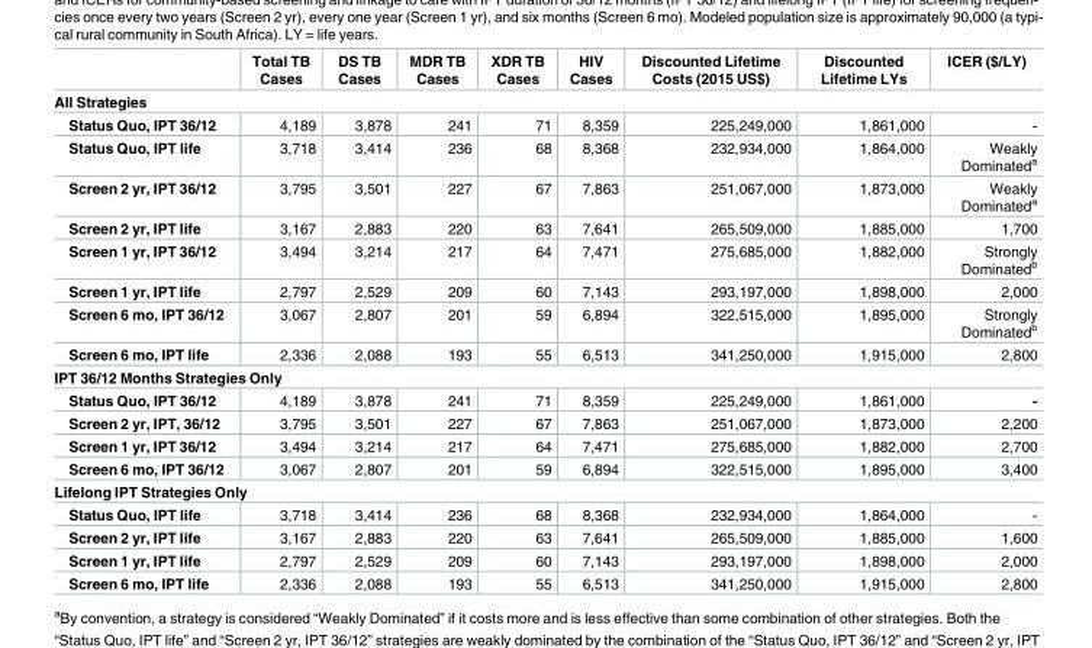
<table><thead><tr><td></td><td>Total TB Cases</td><td>DS TB Cases</td><td>MDR TB Cases</td><td>XDR TB Cases</td><td>HIV Cases</td><td>Discounted Lifetime Costs (2015 US$)</td><td>Discounted Lifetime LYs</td><td>ICER ($/LY)</td></tr></thead><tbody><tr><td colspan="9">All Strategies</td></tr><tr><td>Status Quo, IPT 36/12</td><td>4,189</td><td>3,878</td><td>241</td><td>71</td><td>8,359</td><td>225,249,000</td><td>1,861,000</td><td>-</td></tr><tr><td>Status Quo, IPT life</td><td>3,718</td><td>3,414</td><td>236</td><td>68</td><td>8,368</td><td>232,934,000</td><td>1,864,000</td><td>Weakly Dominated<sup>a</sup></td></tr><tr><td>Screen 2 yr, IPT 36/12</td><td>3,795</td><td>3,501</td><td>227</td><td>67</td><td>7,863</td><td>251,067,000</td><td>1,873,000</td><td>Weakly Dominated<sup>a</sup></td></tr><tr><td>Screen 2 yr, IPT life</td><td>3,167</td><td>2,883</td><td>220</td><td>63</td><td>7,641</td><td>265,509,000</td><td>1,885,000</td><td>1,700</td></tr><tr><td>Screen 1 yr, IPT 36/12</td><td>3,494</td><td>3,214</td><td>217</td><td>64</td><td>7,471</td><td>275,685,000</td><td>1,882,000</td><td>Strongly Dominated<sup>b</sup></td></tr><tr><td>Screen 1 yr, IPT life</td><td>2,797</td><td>2,529</td><td>209</td><td>60</td><td>7,143</td><td>293,197,000</td><td>1,898,000</td><td>2,000</td></tr><tr><td>Screen 6 mo, IPT 36/12</td><td>3,067</td><td>2,807</td><td>201</td><td>59</td><td>6,894</td><td>322,515,000</td><td>1,895,000</td><td>Strongly Dominated<sup>b</sup></td></tr><tr><td>Screen 6 mo, IPT life</td><td>2,336</td><td>2,088</td><td>193</td><td>55</td><td>6,513</td><td>341,250,000</td><td>1,915,000</td><td>2,800</td></tr><tr><td colspan="9">IPT 36/12 Months Strategies Only</td></tr><tr><td>Status Quo, IPT 36/12</td><td>4,189</td><td>3,878</td><td>241</td><td>71</td><td>8,359</td><td>225,249,000</td><td>1,861,000</td><td>-</td></tr><tr><td>Screen 2 yr, IPT, 36/12</td><td>3,795</td><td>3,501</td><td>227</td><td>67</td><td>7,863</td><td>251,067,000</td><td>1,873,000</td><td>2,200</td></tr><tr><td>Screen 1 yr, IPT 36/12</td><td>3,494</td><td>3,214</td><td>217</td><td>64</td><td>7,471</td><td>275,685,000</td><td>1,882,000</td><td>2,700</td></tr><tr><td>Screen 6 mo, IPT 36/12</td><td>3,067</td><td>2,807</td><td>201</td><td>59</td><td>6,894</td><td>322,515,000</td><td>1,895,000</td><td>3,400</td></tr><tr><td colspan="9">Lifelong IPT Strategies Only</td></tr><tr><td>Status Quo, IPT life</td><td>3,718</td><td>3,414</td><td>236</td><td>68</td><td>8,368</td><td>232,934,000</td><td>1,864,000</td><td>-</td></tr><tr><td>Screen 2 yr, IPT life</td><td>3,167</td><td>2,883</td><td>220</td><td>63</td><td>7,641</td><td>265,509,000</td><td>1,885,000</td><td>1,600</td></tr><tr><td>Screen 1 yr, IPT life</td><td>2,797</td><td>2,529</td><td>209</td><td>60</td><td>7,143</td><td>293,197,000</td><td>1,898,000</td><td>2,000</td></tr><tr><td>Screen 6 mo, IPT life</td><td>2,336</td><td>2,088</td><td>193</td><td>55</td><td>6,513</td><td>341,250,000</td><td>1,915,000</td><td>2,800</td></tr></tbody></table>